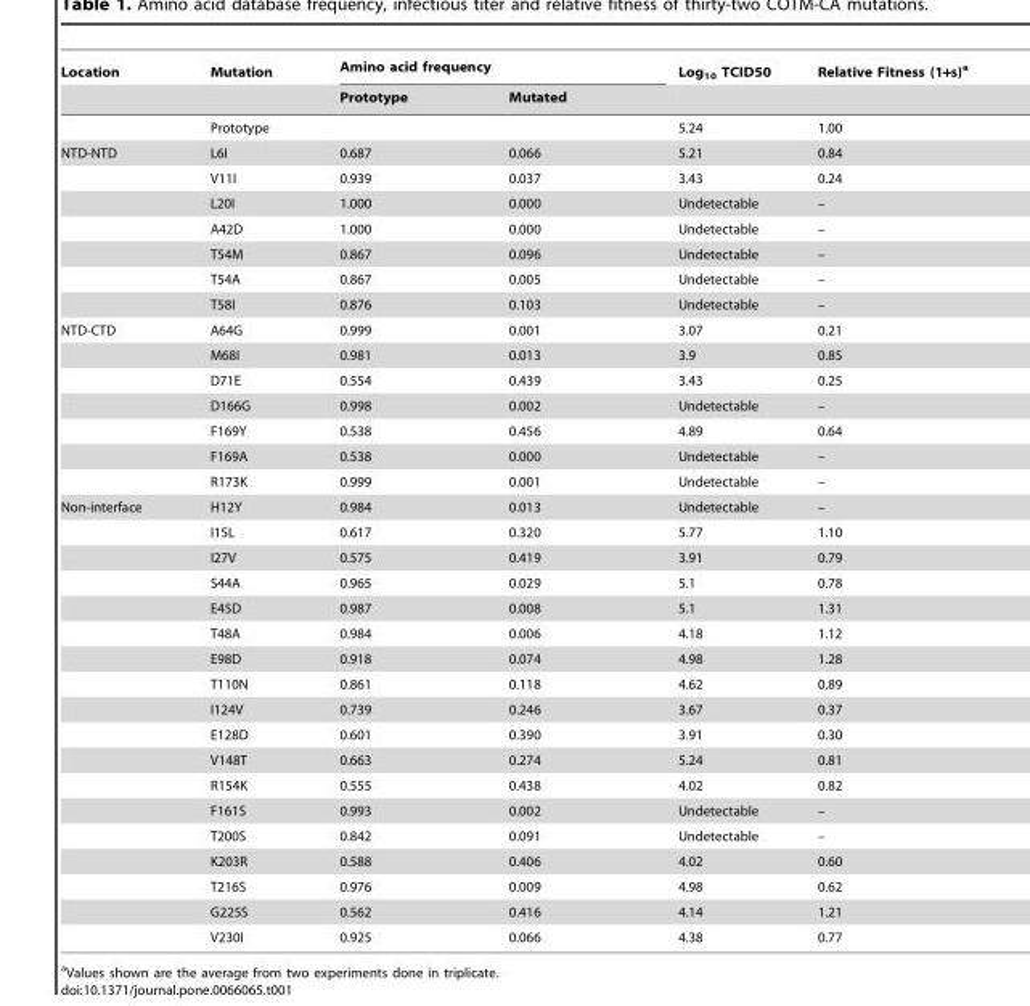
<table><thead><tr><td rowspan="2">Location</td><td rowspan="2">Mutation</td><td colspan="2">Amino acid frequency</td><td rowspan="2">Log<sub>10</sub> TCID50</td><td rowspan="2">Relative Fitness (1+s)<sup>a</sup></td></tr><tr><td>Prototype</td><td>Mutated</td></tr></thead><tbody><tr><td></td><td>Prototype</td><td></td><td></td><td>5.24</td><td>1.00</td></tr><tr><td rowspan="7">NTD-NTD</td><td>L6I</td><td>0.687</td><td>0.066</td><td>5.21</td><td>0.84</td></tr><tr><td>V11I</td><td>0.939</td><td>0.037</td><td>3.43</td><td>0.24</td></tr><tr><td>L20I</td><td>1.000</td><td>0.000</td><td>Undetectable</td><td>–</td></tr><tr><td>A42D</td><td>1.000</td><td>0.000</td><td>Undetectable</td><td>–</td></tr><tr><td>T54M</td><td>0.867</td><td>0.096</td><td>Undetectable</td><td>–</td></tr><tr><td>T54A</td><td>0.867</td><td>0.005</td><td>Undetectable</td><td>–</td></tr><tr><td>T58I</td><td>0.876</td><td>0.103</td><td>Undetectable</td><td>–</td></tr><tr><td rowspan="7">NTD-CTD</td><td>A64G</td><td>0.999</td><td>0.001</td><td>3.07</td><td>0.21</td></tr><tr><td>M68I</td><td>0.981</td><td>0.013</td><td>3.9</td><td>0.85</td></tr><tr><td>D71E</td><td>0.554</td><td>0.439</td><td>3.43</td><td>0.25</td></tr><tr><td>D166G</td><td>0.998</td><td>0.002</td><td>Undetectable</td><td>–</td></tr><tr><td>F169Y</td><td>0.538</td><td>0.456</td><td>4.89</td><td>0.64</td></tr><tr><td>F169A</td><td>0.538</td><td>0.000</td><td>Undetectable</td><td>–</td></tr><tr><td>R173K</td><td>0.999</td><td>0.001</td><td>Undetectable</td><td>–</td></tr><tr><td rowspan="18">Non-interface</td><td>H12Y</td><td>0.984</td><td>0.013</td><td>Undetectable</td><td>–</td></tr><tr><td>I15L</td><td>0.617</td><td>0.320</td><td>5.77</td><td>1.10</td></tr><tr><td>I27V</td><td>0.575</td><td>0.419</td><td>3.91</td><td>0.79</td></tr><tr><td>S44A</td><td>0.965</td><td>0.029</td><td>5.1</td><td>0.78</td></tr><tr><td>E45D</td><td>0.987</td><td>0.008</td><td>5.1</td><td>1.31</td></tr><tr><td>T48A</td><td>0.984</td><td>0.006</td><td>4.18</td><td>1.12</td></tr><tr><td>E98D</td><td>0.918</td><td>0.074</td><td>4.98</td><td>1.28</td></tr><tr><td>T110N</td><td>0.861</td><td>0.118</td><td>4.62</td><td>0.89</td></tr><tr><td>I124V</td><td>0.739</td><td>0.246</td><td>3.67</td><td>0.37</td></tr><tr><td>E128D</td><td>0.601</td><td>0.390</td><td>3.91</td><td>0.30</td></tr><tr><td>V148T</td><td>0.663</td><td>0.274</td><td>5.24</td><td>0.81</td></tr><tr><td>R154K</td><td>0.555</td><td>0.438</td><td>4.02</td><td>0.82</td></tr><tr><td>F161S</td><td>0.993</td><td>0.002</td><td>Undetectable</td><td>–</td></tr><tr><td>T200S</td><td>0.842</td><td>0.091</td><td>Undetectable</td><td>–</td></tr><tr><td>K203R</td><td>0.588</td><td>0.406</td><td>4.02</td><td>0.60</td></tr><tr><td>T216S</td><td>0.976</td><td>0.009</td><td>4.98</td><td>0.62</td></tr><tr><td>G225S</td><td>0.562</td><td>0.416</td><td>4.14</td><td>1.21</td></tr><tr><td>V230I</td><td>0.925</td><td>0.066</td><td>4.38</td><td>0.77</td></tr></tbody></table>